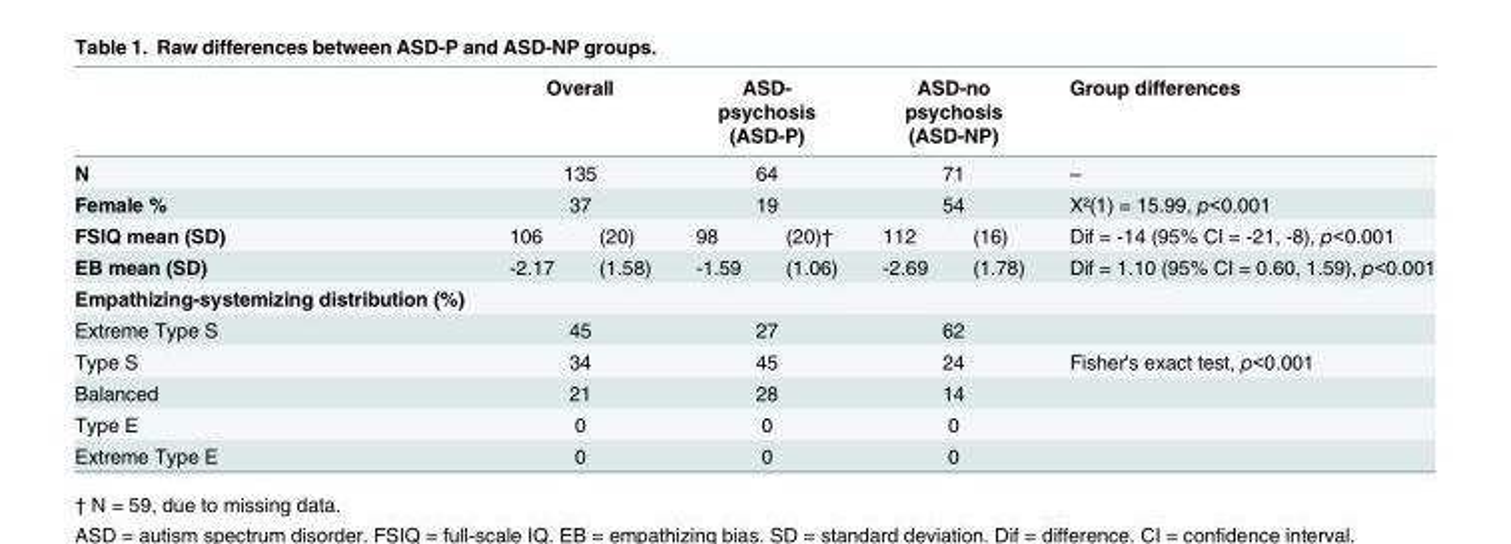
<table><thead><tr><td rowspan="4">N Female % FSIQ mean (SD)</td><td rowspan="3" colspan="2">Overall 135 37</td><td rowspan="3" colspan="2">ASD- psychosis (ASD-P) 64 19</td><td rowspan="3" colspan="2">ASD-no psychosis (ASD-NP) 71 54</td><td rowspan="4">Group differences – X²(1) = 15.99, p&lt;0.001 Dif = -14 (95% CI = -21, -8), p&lt;0.001</td></tr><tr></tr><tr></tr><tr><td>106</td><td>(20)</td><td>98</td><td>(20)†</td><td>112</td><td>(16)</td></tr></thead><tbody><tr><td>EB mean (SD)</td><td>-2.17</td><td>(1.58)</td><td>-1.59</td><td>(1.06)</td><td>-2.69</td><td>(1.78)</td><td>Dif = 1.10 (95% CI = 0.60, 1.59), p&lt;0.001</td></tr><tr><td colspan="8">Empathizing-systemizing distribution (%)</td></tr><tr><td>Extreme Type S</td><td colspan="2">45</td><td colspan="2">27</td><td colspan="2">62</td><td></td></tr><tr><td>Type S</td><td colspan="2">34</td><td colspan="2">45</td><td colspan="2">24</td><td>Fisher&#x27;s exact test, p&lt;0.001</td></tr><tr><td>Balanced</td><td colspan="2">21</td><td colspan="2">28</td><td colspan="2">14</td><td></td></tr><tr><td>Type E</td><td colspan="2">0</td><td colspan="2">0</td><td colspan="2">0</td><td></td></tr><tr><td>Extreme Type E</td><td colspan="2">0</td><td colspan="2">0</td><td colspan="2">0</td><td></td></tr></tbody></table>